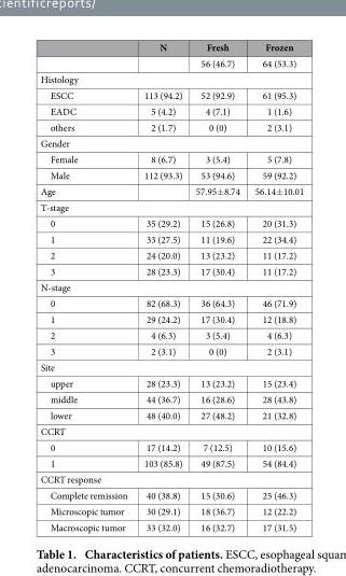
<table><thead><tr><td></td><td>N</td><td>Fresh</td><td>Frozen</td></tr></thead><tbody><tr><td></td><td></td><td>56 (46.7)</td><td>64 (53.3)</td></tr><tr><td colspan="4">Histology</td></tr><tr><td>ESCC</td><td>113 (94.2)</td><td>52 (92.9)</td><td>61 (95.3)</td></tr><tr><td>EADC</td><td>5 (4.2)</td><td>4 (7.1)</td><td>1 (1.6)</td></tr><tr><td>others</td><td>2 (1.7)</td><td>0 (0)</td><td>2 (3.1)</td></tr><tr><td colspan="4">Gender</td></tr><tr><td>Female</td><td>8 (6.7)</td><td>3 (5.4)</td><td>5 (7.8)</td></tr><tr><td>Male</td><td>112 (93.3)</td><td>53 (94.6)</td><td>59 (92.2)</td></tr><tr><td>Age</td><td></td><td>57.95± 8.74</td><td>56.14± 10.01</td></tr><tr><td colspan="4">T-stage</td></tr><tr><td>0</td><td>35 (29.2)</td><td>15 (26.8)</td><td>20 (31.3)</td></tr><tr><td>1</td><td>33 (27.5)</td><td>11 (19.6)</td><td>22 (34.4)</td></tr><tr><td>2</td><td>24 (20.0)</td><td>13 (23.2)</td><td>11 (17.2)</td></tr><tr><td>3</td><td>28 (23.3)</td><td>17 (30.4)</td><td>11 (17.2)</td></tr><tr><td colspan="4">N-stage</td></tr><tr><td>0</td><td>82 (68.3)</td><td>36 (64.3)</td><td>46 (71.9)</td></tr><tr><td>1</td><td>29 (24.2)</td><td>17 (30.4)</td><td>12 (18.8)</td></tr><tr><td>2</td><td>4 (6.3)</td><td>3 (5.4)</td><td>4 (6.3)</td></tr><tr><td>3</td><td>2 (3.1)</td><td>0 (0)</td><td>2 (3.1)</td></tr><tr><td colspan="4">Site</td></tr><tr><td>upper</td><td>28 (23.3)</td><td>13 (23.2)</td><td>15 (23.4)</td></tr><tr><td>middle</td><td>44 (36.7)</td><td>16 (28.6)</td><td>28 (43.8)</td></tr><tr><td>lower</td><td>48 (40.0)</td><td>27 (48.2)</td><td>21 (32.8)</td></tr><tr><td colspan="4">CCRT</td></tr><tr><td>0</td><td>17 (14.2)</td><td>7 (12.5)</td><td>10 (15.6)</td></tr><tr><td>1</td><td>103 (85.8)</td><td>49 (87.5)</td><td>54 (84.4)</td></tr><tr><td colspan="4">CCRT response</td></tr><tr><td>Complete remission</td><td>40 (38.8)</td><td>15 (30.6)</td><td>25 (46.3)</td></tr><tr><td>Microscopic tumor</td><td>30 (29.1)</td><td>18 (36.7)</td><td>12 (22.2)</td></tr><tr><td>Macroscopic tumor</td><td>33 (32.0)</td><td>16 (32.7)</td><td>17 (31.5)</td></tr></tbody></table>